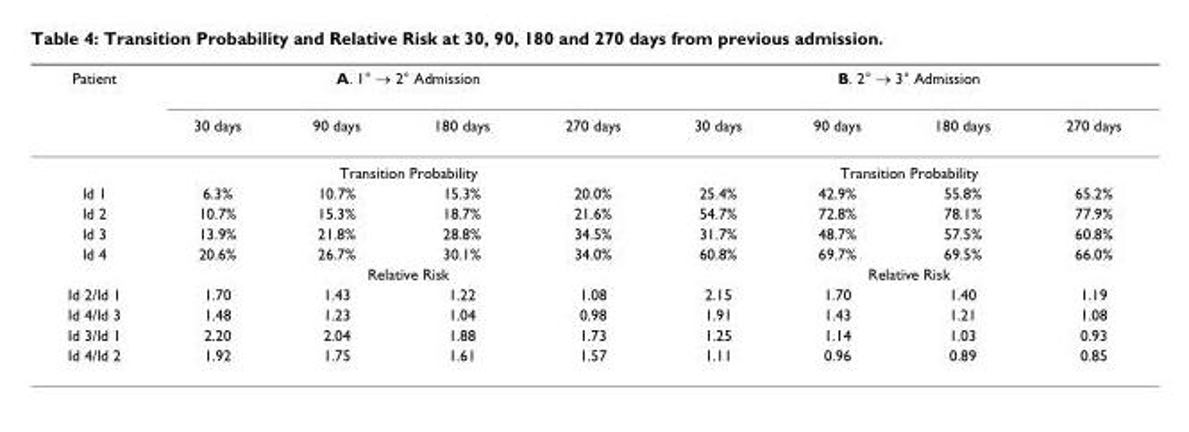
<table><thead><tr><td rowspan="2">Patient</td><td colspan="4">A. 1° → 2° Admission</td><td colspan="4">B. 2° → 3° Admission</td></tr><tr><td>30 days</td><td>90 days</td><td>180 days</td><td>270 days</td><td>30 days</td><td>90 days</td><td>180 days</td><td>270 days</td></tr></thead><tbody><tr><td></td><td colspan="4">Transition Probability</td><td colspan="4">Transition Probability</td></tr><tr><td>Id 1</td><td>6.3%</td><td>10.7%</td><td>15.3%</td><td>20.0%</td><td>25.4%</td><td>42.9%</td><td>55.8%</td><td>65.2%</td></tr><tr><td>Id 2</td><td>10.7%</td><td>15.3%</td><td>18.7%</td><td>21.6%</td><td>54.7%</td><td>72.8%</td><td>78.1%</td><td>77.9%</td></tr><tr><td>Id 3</td><td>13.9%</td><td>21.8%</td><td>28.8%</td><td>34.5%</td><td>31.7%</td><td>48.7%</td><td>57.5%</td><td>60.8%</td></tr><tr><td rowspan="2">Id 4</td><td>20.6%</td><td>26.7%</td><td>30.1%</td><td>34.0%</td><td>60.8%</td><td>69.7%</td><td>69.5%</td><td>66.0%</td></tr><tr><td colspan="4">Relative Risk</td><td colspan="4">Relative Risk</td></tr><tr><td>Id 2/Id 1</td><td>1.70</td><td>1.43</td><td>1.22</td><td>1.08</td><td>2.15</td><td>1.70</td><td>1.40</td><td>1.19</td></tr><tr><td>Id 4/Id 3</td><td>1.48</td><td>1.23</td><td>1.04</td><td>0.98</td><td>1.91</td><td>1.43</td><td>1.21</td><td>1.08</td></tr><tr><td>Id 3/Id 1</td><td>2.20</td><td>2.04</td><td>1.88</td><td>1.73</td><td>1.25</td><td>1.14</td><td>1.03</td><td>0.93</td></tr><tr><td>Id 4/Id 2</td><td>1.92</td><td>1.75</td><td>1.61</td><td>1.57</td><td>1.11</td><td>0.96</td><td>0.89</td><td>0.85</td></tr></tbody></table>